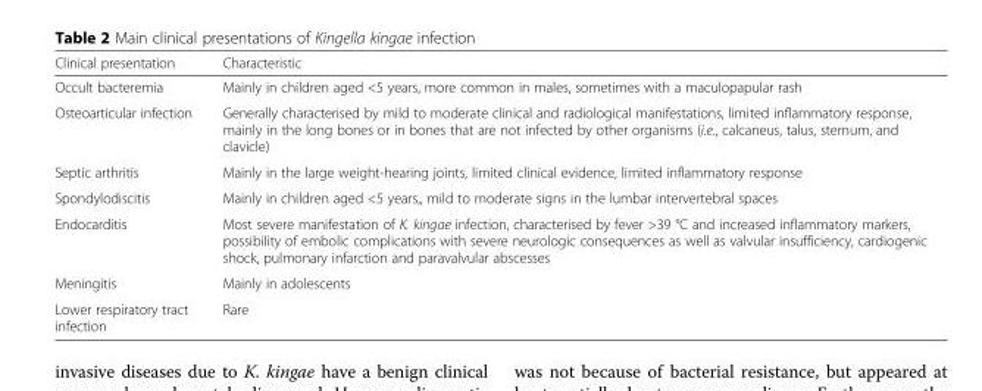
<table><thead><tr><td>Clinical presentation</td><td>Characteristic</td></tr></thead><tbody><tr><td>Occult bacteremia</td><td>Mainly in children aged &lt;5 years, more common in males, sometimes with a maculopapular rash</td></tr><tr><td>Osteoarticular infection</td><td>Generally characterised by mild to moderate clinical and radiological manifestations, limited inflammatory response, mainly in the long bones or in bones that are not infected by other organisms (i.e., calcaneus, talus, sternum, and clavicle)</td></tr><tr><td>Septic arthritis</td><td>Mainly in the large weight-hearing joints, limited clinical evidence, limited inflammatory response</td></tr><tr><td>Spondylodiscitis</td><td>Mainly in children aged &lt;5 years,, mild to moderate signs in the lumbar intervertebral spaces</td></tr><tr><td>Endocarditis</td><td>Most severe manifestation of K. kingae infection, characterised by fever &gt;39 °C and increased inflammatory markers, possibility of embolic complications with severe neurologic consequences as well as valvular insufficiency, cardiogenic shock, pulmonary infarction and paravalvular abscesses</td></tr><tr><td>Meningitis</td><td>Mainly in adolescents</td></tr><tr><td>Lower respiratory tract infection</td><td>Rare</td></tr></tbody></table>